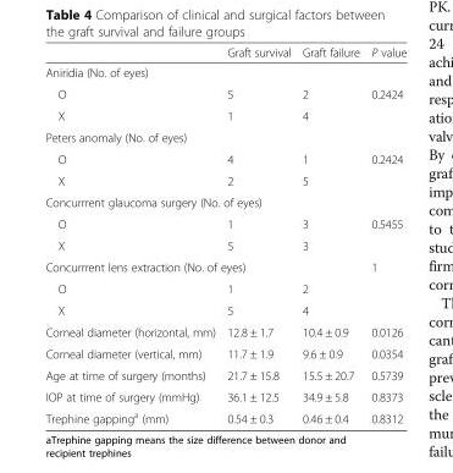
<table><thead><tr><td></td><td>Graft survival</td><td>Graft failure</td><td>P value</td></tr></thead><tbody><tr><td colspan="4">Aniridia (No. of eyes)</td></tr><tr><td>O</td><td>5</td><td>2</td><td>0.2424</td></tr><tr><td>X</td><td>1</td><td>4</td><td></td></tr><tr><td colspan="4">Peters anomaly (No. of eyes)</td></tr><tr><td>O</td><td>4</td><td>1</td><td>0.2424</td></tr><tr><td>X</td><td>2</td><td>5</td><td></td></tr><tr><td colspan="4">Concurrrent glaucoma surgery (No. of eyes)</td></tr><tr><td>O</td><td>1</td><td>3</td><td>0.5455</td></tr><tr><td>X</td><td>5</td><td>3</td><td></td></tr><tr><td colspan="3">Concurrrent lens extraction (No. of eyes)</td><td rowspan="3">1</td></tr><tr><td>O</td><td>1</td><td>2</td></tr><tr><td>X</td><td>5</td><td>4</td></tr><tr><td>Corneal diameter (horizontal, mm)</td><td>12.8 ± 1.7</td><td>10.4 ± 0.9</td><td>0.0126</td></tr><tr><td>Corneal diameter (vertical, mm)</td><td>11.7 ± 1.9</td><td>9.6 ± 0.9</td><td>0.0354</td></tr><tr><td>Age at time of surgery (months)</td><td>21.7 ± 15.8</td><td>15.5 ± 20.7</td><td>0.5739</td></tr><tr><td>IOP at time of surgery (mmHg)</td><td>36.1 ± 12.5</td><td>34.9 ± 5.8</td><td>0.8373</td></tr><tr><td>Trephine gapping<sup>a</sup> (mm)</td><td>0.54 ± 0.3</td><td>0.46 ± 0.4</td><td>0.8312</td></tr></tbody></table>